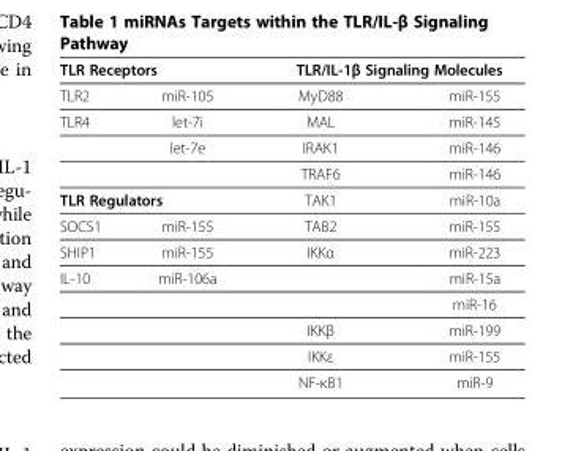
<table><thead><tr><td colspan="2">TLR Receptors</td><td colspan="2">TLR/IL-1β Signaling Molecules</td></tr><tr><td>TLR2</td><td>miR-105</td><td>MyD88</td><td>miR-155</td></tr></thead><tbody><tr><td rowspan="3">TLR4</td><td>let-7i</td><td>MAL</td><td>miR-145</td></tr><tr><td>let-7e</td><td>IRAK1</td><td>miR-146</td></tr><tr><td></td><td>TRAF6</td><td>miR-146</td></tr><tr><td colspan="2">TLR Regulators</td><td>TAK1</td><td>miR-10a</td></tr><tr><td>SOCS1</td><td>miR-155</td><td>TAB2</td><td>miR-155</td></tr><tr><td>SHIP1</td><td>miR-155</td><td>IKKα</td><td>miR-223</td></tr><tr><td rowspan="5">IL-10</td><td>miR-106a</td><td></td><td>miR-15a</td></tr><tr><td></td><td></td><td>miR-16</td></tr><tr><td></td><td>IKKβ</td><td>miR-199</td></tr><tr><td></td><td>IKKε</td><td>miR-155</td></tr><tr><td></td><td>NF-κB1</td><td>miR-9</td></tr></tbody></table>